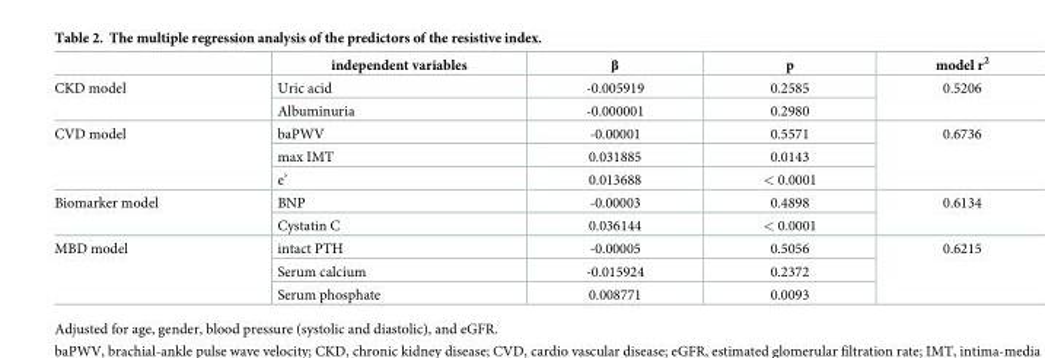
<table><thead><tr><td></td><td>independent variables</td><td>β</td><td>p</td><td>model r<sup>2</sup></td></tr></thead><tbody><tr><td rowspan="2">CKD model</td><td>Uric acid</td><td>-0.005919</td><td>0.2585</td><td rowspan="2">0.5206</td></tr><tr><td>Albuminuria</td><td>-0.000001</td><td>0.2980</td></tr><tr><td rowspan="3">CVD model</td><td>baPWV</td><td>-0.00001</td><td>0.5571</td><td rowspan="3">0.6736</td></tr><tr><td>max IMT</td><td>0.031885</td><td>0.0143</td></tr><tr><td>e’</td><td>0.013688</td><td>&lt; 0.0001</td></tr><tr><td rowspan="2">Biomarker model</td><td>BNP</td><td>-0.00003</td><td>0.4898</td><td rowspan="2">0.6134</td></tr><tr><td>Cystatin C</td><td>0.036144</td><td>&lt; 0.0001</td></tr><tr><td rowspan="3">MBD model</td><td>intact PTH</td><td>-0.00005</td><td>0.5056</td><td rowspan="3">0.6215</td></tr><tr><td>Serum calcium</td><td>-0.015924</td><td>0.2372</td></tr><tr><td>Serum phosphate</td><td>0.008771</td><td>0.0093</td></tr></tbody></table>